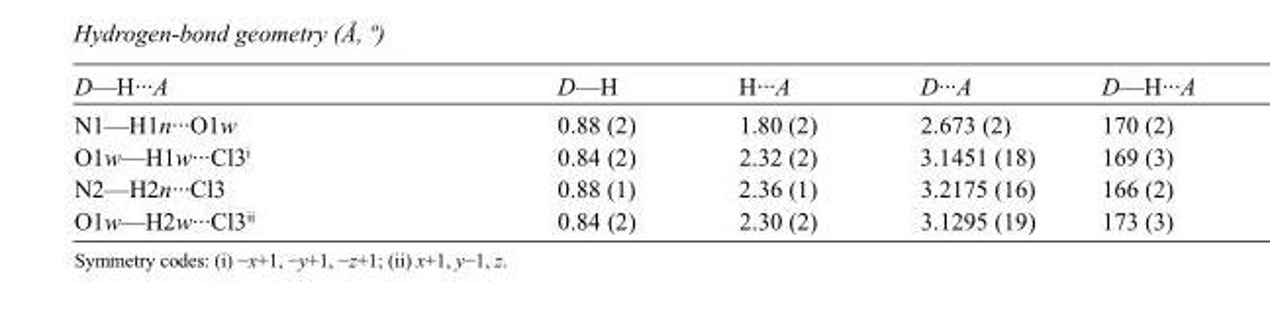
<table><tbody><tr><td>D—H···A</td><td>D—H</td><td>H···A</td><td>D···A</td><td>D—H···A</td></tr><tr><td>N1—H1n···O1w</td><td>0.88 (2)</td><td>1.80 (2)</td><td>2.673 (2)</td><td>170 (2)</td></tr><tr><td>O1w—H1w···Cl3<sup>i</sup></td><td>0.84 (2)</td><td>2.32 (2)</td><td>3.1451 (18)</td><td>169 (3)</td></tr><tr><td>N2—H2n···Cl3</td><td>0.88 (1)</td><td>2.36 (1)</td><td>3.2175 (16)</td><td>166 (2)</td></tr><tr><td>O1w—H2w···Cl3<sup>ii</sup></td><td>0.84 (2)</td><td>2.30 (2)</td><td>3.1295 (19)</td><td>173 (3)</td></tr></tbody></table>